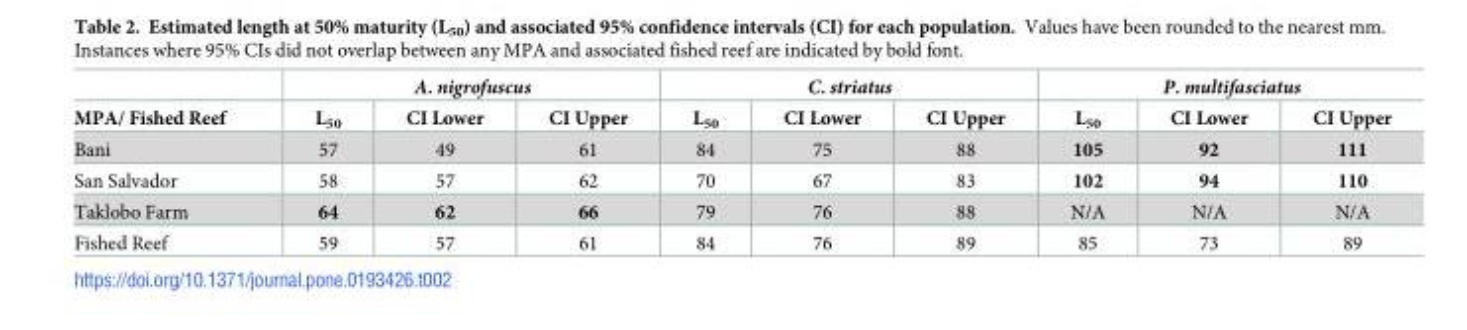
<table><thead><tr><td rowspan="2">MPA/ Fished Reef</td><td colspan="3">A. nigrofuscus</td><td colspan="3">C. striatus</td><td colspan="3">P. multifasciatus</td></tr><tr><td>L<sub>50</sub></td><td>CI Lower</td><td>CI Upper</td><td>L<sub>50</sub></td><td>CI Lower</td><td>CI Upper</td><td>L<sub>50</sub></td><td>CI Lower</td><td>CI Upper</td></tr></thead><tbody><tr><td>Bani</td><td>57</td><td>49</td><td>61</td><td>84</td><td>75</td><td>88</td><td>105</td><td>92</td><td>111</td></tr><tr><td>San Salvador</td><td>58</td><td>57</td><td>62</td><td>70</td><td>67</td><td>83</td><td>102</td><td>94</td><td>110</td></tr><tr><td>Taklobo Farm</td><td>64</td><td>62</td><td>66</td><td>79</td><td>76</td><td>88</td><td>N/A</td><td>N/A</td><td>N/A</td></tr><tr><td>Fished Reef</td><td>59</td><td>57</td><td>61</td><td>84</td><td>76</td><td>89</td><td>85</td><td>73</td><td>89</td></tr></tbody></table>